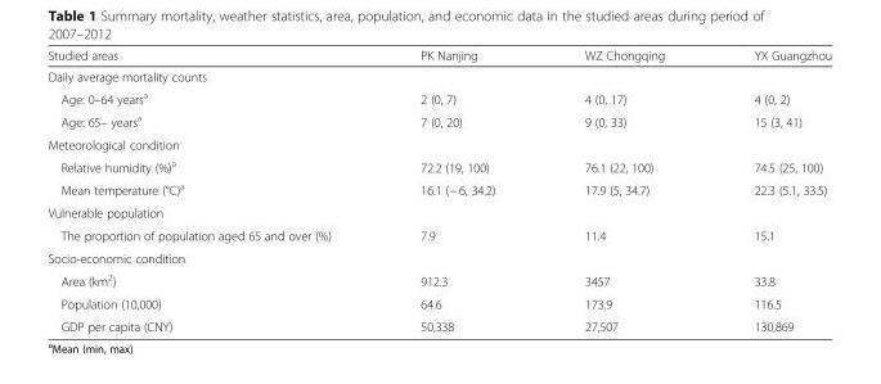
<table><thead><tr><td>Studied areas</td><td>PK Nanjing</td><td>WZ Chongqing</td><td>YX Guangzhou</td></tr></thead><tbody><tr><td colspan="4">Daily average mortality counts</td></tr><tr><td>Age: 0–64 years<sup>a</sup></td><td>2 (0, 7)</td><td>4 (0, 17)</td><td>4 (0, 2)</td></tr><tr><td>Age: 65– years<sup>a</sup></td><td>7 (0, 20)</td><td>9 (0, 33)</td><td>15 (3, 41)</td></tr><tr><td colspan="4">Meteorological condition</td></tr><tr><td>Relative humidity (%)<sup>a</sup></td><td>72.2 (19, 100)</td><td>76.1 (22, 100)</td><td>74.5 (25, 100)</td></tr><tr><td>Mean temperature (°C)<sup>a</sup></td><td>16.1 (− 6, 34.2)</td><td>17.9 (5, 34.7)</td><td>22.3 (5.1, 33.5)</td></tr><tr><td colspan="4">Vulnerable population</td></tr><tr><td>The proportion of population aged 65 and over (%)</td><td>7.9</td><td>11.4</td><td>15.1</td></tr><tr><td colspan="4">Socio-economic condition</td></tr><tr><td>Area (km<sup>2</sup>)</td><td>912.3</td><td>3457</td><td>33.8</td></tr><tr><td>Population (10,000)</td><td>64.6</td><td>173.9</td><td>116.5</td></tr><tr><td>GDP per capita (CNY)</td><td>50,338</td><td>27,507</td><td>130,869</td></tr></tbody></table>